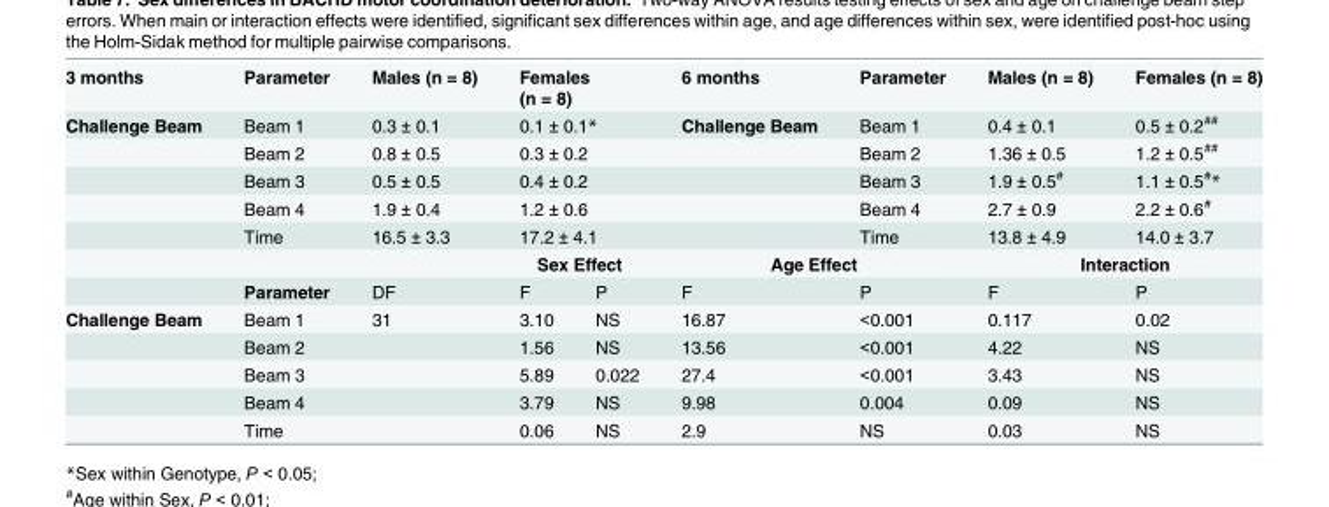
<table><tbody><tr><td>3 months</td><td>Parameter</td><td>Males (n = 8)</td><td colspan="2">Females (n = 8)</td><td>6 months</td><td>Parameter</td><td>Males (n = 8)</td><td>Females (n = 8)</td></tr><tr><td rowspan="7">Challenge Beam</td><td>Beam 1</td><td>0.3 ± 0.1</td><td colspan="2">0.1 ± 0.1*</td><td>Challenge Beam</td><td>Beam 1</td><td>0.4 ± 0.1</td><td>0.5 ± 0.2<sup>##</sup></td></tr><tr><td>Beam 2</td><td>0.8 ± 0.5</td><td colspan="2">0.3 ± 0.2</td><td></td><td>Beam 2</td><td>1.36 ± 0.5</td><td>1.2 ± 0.5<sup>##</sup></td></tr><tr><td>Beam 3</td><td>0.5 ± 0.5</td><td colspan="2">0.4 ± 0.2</td><td></td><td>Beam 3</td><td>1.9 ± 0.5<sup>#</sup></td><td>1.1 ± 0.5<sup>#</sup>*</td></tr><tr><td>Beam 4</td><td>1.9 ± 0.4</td><td colspan="2">1.2 ± 0.6</td><td></td><td>Beam 4</td><td>2.7 ± 0.9</td><td>2.2 ± 0.6<sup>#</sup></td></tr><tr><td>Time</td><td>16.5 ± 3.3</td><td colspan="2">17.2 ± 4.1</td><td></td><td>Time</td><td>13.8 ± 4.9</td><td>14.0 ± 3.7</td></tr><tr><td></td><td></td><td colspan="2">Sex Effect</td><td colspan="2">Age Effect</td><td colspan="2">Interaction</td></tr><tr><td>Parameter</td><td>DF</td><td>F</td><td>P</td><td>F</td><td>P</td><td>F</td><td>P</td></tr><tr><td rowspan="5">Challenge Beam</td><td>Beam 1</td><td>31</td><td>3.10</td><td>NS</td><td>16.87</td><td>&lt;0.001</td><td>0.117</td><td>0.02</td></tr><tr><td>Beam 2</td><td></td><td>1.56</td><td>NS</td><td>13.56</td><td>&lt;0.001</td><td>4.22</td><td>NS</td></tr><tr><td>Beam 3</td><td></td><td>5.89</td><td>0.022</td><td>27.4</td><td>&lt;0.001</td><td>3.43</td><td>NS</td></tr><tr><td>Beam 4</td><td></td><td>3.79</td><td>NS</td><td>9.98</td><td>0.004</td><td>0.09</td><td>NS</td></tr><tr><td>Time</td><td></td><td>0.06</td><td>NS</td><td>2.9</td><td>NS</td><td>0.03</td><td>NS</td></tr></tbody></table>